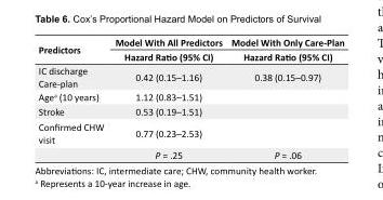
<table><tbody><tr><td rowspan="2">Predictors</td><td>Model With All Predictors</td><td>Model With Only Care-Plan</td></tr><tr><td>Hazard Ratio (95% CI)</td><td>Hazard Ratio (95% CI)</td></tr><tr><td>IC discharge Care-plan</td><td>0.42 (0.15–1.16)</td><td>0.38 (0.15–0.97)</td></tr><tr><td>Age<sup>a</sup> (10 years)</td><td>1.12 (0.83–1.51)</td><td></td></tr><tr><td>Stroke</td><td>0.53 (0.19–1.51)</td><td></td></tr><tr><td rowspan="2">Confirmed CHW visit</td><td>0.77 (0.23–2.53)</td><td></td></tr><tr><td>P = .25</td><td>P = .06</td></tr></tbody></table>